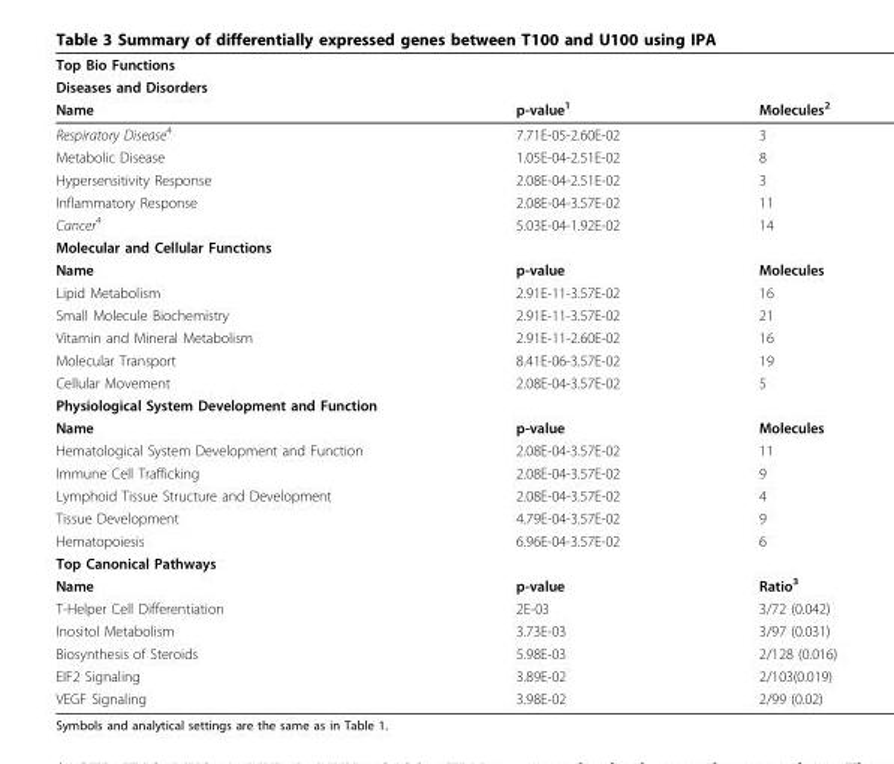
<table><thead><tr><td rowspan="3">Top Bio Functions Diseases and Disorders Name</td><td rowspan="3">p-value<sup>1</sup></td><td rowspan="3">Molecules<sup>2</sup></td></tr><tr></tr><tr></tr></thead><tbody><tr><td>Respiratory Disease<sup>4</sup></td><td>7.71E-05-2.60E-02</td><td>3</td></tr><tr><td>Metabolic Disease</td><td>1.05E-04-2.51E-02</td><td>8</td></tr><tr><td>Hypersensitivity Response</td><td>2.08E-04-2.51E-02</td><td>3</td></tr><tr><td>Inflammatory Response</td><td>2.08E-04-3.57E-02</td><td>11</td></tr><tr><td>Cancer<sup>4</sup></td><td>5.03E-04-1.92E-02</td><td>14</td></tr><tr><td colspan="3">Molecular and Cellular Functions</td></tr><tr><td>Name</td><td>p-value</td><td>Molecules</td></tr><tr><td>Lipid Metabolism</td><td>2.91E-11-3.57E-02</td><td>16</td></tr><tr><td>Small Molecule Biochemistry</td><td>2.91E-11-3.57E-02</td><td>21</td></tr><tr><td>Vitamin and Mineral Metabolism</td><td>2.91E-11-2.60E-02</td><td>16</td></tr><tr><td>Molecular Transport</td><td>8.41E-06-3.57E-02</td><td>19</td></tr><tr><td>Cellular Movement</td><td>2.08E-04-3.57E-02</td><td>5</td></tr><tr><td colspan="3">Physiological System Development and Function</td></tr><tr><td>Name</td><td>p-value</td><td>Molecules</td></tr><tr><td>Hematological System Development and Function</td><td>2.08E-04-3.57E-02</td><td>11</td></tr><tr><td>Immune Cell Trafficking</td><td>2.08E-04-3.57E-02</td><td>9</td></tr><tr><td>Lymphoid Tissue Structure and Development</td><td>2.08E-04-3.57E-02</td><td>4</td></tr><tr><td>Tissue Development</td><td>4.79E-04-3.57E-02</td><td>9</td></tr><tr><td>Hematopoiesis</td><td>6.96E-04-3.57E-02</td><td>6</td></tr><tr><td colspan="3">Top Canonical Pathways</td></tr><tr><td>Name</td><td>p-value</td><td>Ratio<sup>3</sup></td></tr><tr><td>T-Helper Cell Differentiation</td><td>2E-03</td><td>3/72 (0.042)</td></tr><tr><td>Inositol Metabolism</td><td>3.73E-03</td><td>3/97 (0.031)</td></tr><tr><td>Biosynthesis of Steroids</td><td>5.98E-03</td><td>2/128 (0.016)</td></tr><tr><td>EIF2 Signaling</td><td>3.89E-02</td><td>2/103(0.019)</td></tr><tr><td>VEGF Signaling</td><td>3.98E-02</td><td>2/99 (0.02)</td></tr></tbody></table>